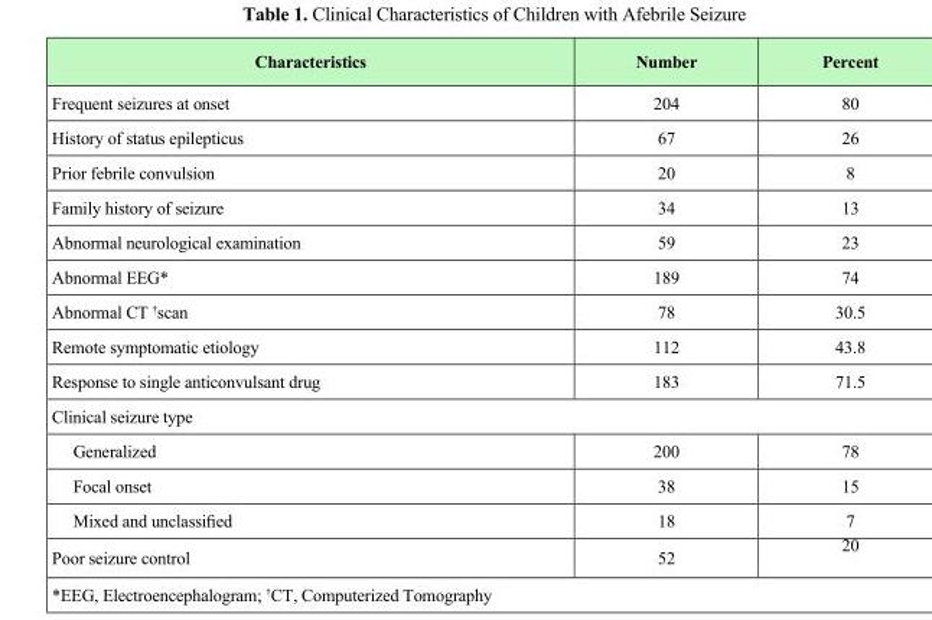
<table><thead><tr><td>Characteristics</td><td>Number</td><td>Percent</td></tr></thead><tbody><tr><td>Frequent seizures at onset</td><td>204</td><td>80</td></tr><tr><td>History of status epilepticus</td><td>67</td><td>26</td></tr><tr><td>Prior febrile convulsion</td><td>20</td><td>8</td></tr><tr><td>Family history of seizure</td><td>34</td><td>13</td></tr><tr><td>Abnormal neurological examination</td><td>59</td><td>23</td></tr><tr><td>Abnormal EEG*</td><td>189</td><td>74</td></tr><tr><td>Abnormal CT <sup>†</sup>scan</td><td>78</td><td>30.5</td></tr><tr><td>Remote symptomatic etiology</td><td>112</td><td>43.8</td></tr><tr><td>Response to single anticonvulsant drug</td><td>183</td><td>71.5</td></tr><tr><td colspan="3">Clinical seizure type</td></tr><tr><td>Generalized</td><td>200</td><td>78</td></tr><tr><td>Focal onset</td><td>38</td><td>15</td></tr><tr><td>Mixed and unclassified</td><td>18</td><td>7</td></tr><tr><td>Poor seizure control</td><td>52</td><td>20</td></tr></tbody></table>